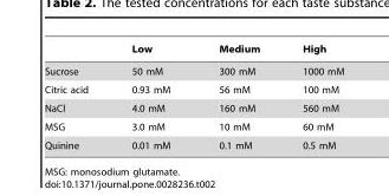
<table><thead><tr><td></td><td>Low</td><td>Medium</td><td>High</td></tr></thead><tbody><tr><td>Sucrose</td><td>50 mM</td><td>300 mM</td><td>1000 mM</td></tr><tr><td>Citric acid</td><td>0.93 mM</td><td>56 mM</td><td>100 mM</td></tr><tr><td>NaCl</td><td>4.0 mM</td><td>160 mM</td><td>560 mM</td></tr><tr><td>MSG</td><td>3.0 mM</td><td>10 mM</td><td>60 mM</td></tr><tr><td>Quinine</td><td>0.01 mM</td><td>0.1 mM</td><td>0.5 mM</td></tr></tbody></table>